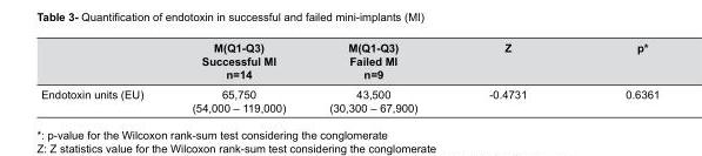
<table><thead><tr><td></td><td>M(Q1-Q3) Successful MI n=14</td><td>M(Q1-Q3) Failed MI n=9</td><td>Z</td><td>p*</td></tr></thead><tbody><tr><td>Endotoxin units (EU)</td><td>65,750 (54,000 – 119,000)</td><td>43,500 (30,300 – 67,900)</td><td>-0.4731</td><td>0.6361</td></tr></tbody></table>